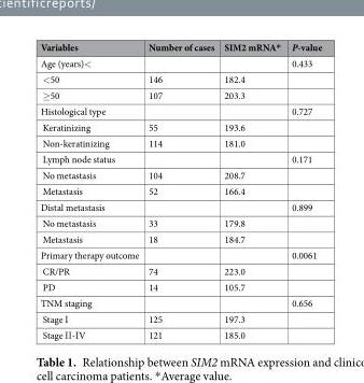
<table><thead><tr><td>Variables</td><td>Number of cases</td><td>SIM2 mRNA*</td><td>P-value</td></tr></thead><tbody><tr><td>Age (years)&lt;</td><td></td><td></td><td>0.433</td></tr><tr><td>&lt;50</td><td>146</td><td>182.4</td><td></td></tr><tr><td>≥50</td><td>107</td><td>203.3</td><td></td></tr><tr><td>Histological type</td><td></td><td></td><td>0.727</td></tr><tr><td>Keratinizing</td><td>55</td><td>193.6</td><td></td></tr><tr><td>Non-keratinizing</td><td>114</td><td>181.0</td><td></td></tr><tr><td>Lymph node status</td><td></td><td></td><td>0.171</td></tr><tr><td>No metastasis</td><td>104</td><td>208.7</td><td></td></tr><tr><td>Metastasis</td><td>52</td><td>166.4</td><td></td></tr><tr><td>Distal metastasis</td><td></td><td></td><td>0.899</td></tr><tr><td>No metastasis</td><td>33</td><td>179.8</td><td></td></tr><tr><td>Metastasis</td><td>18</td><td>184.7</td><td></td></tr><tr><td>Primary therapy outcome</td><td></td><td></td><td>0.0061</td></tr><tr><td>CR/PR</td><td>74</td><td>223.0</td><td></td></tr><tr><td>PD</td><td>14</td><td>105.7</td><td></td></tr><tr><td>TNM staging</td><td></td><td></td><td>0.656</td></tr><tr><td>Stage Ι</td><td>125</td><td>197.3</td><td></td></tr><tr><td>Stage ΙΙ-ΙV</td><td>121</td><td>185.0</td><td></td></tr></tbody></table>